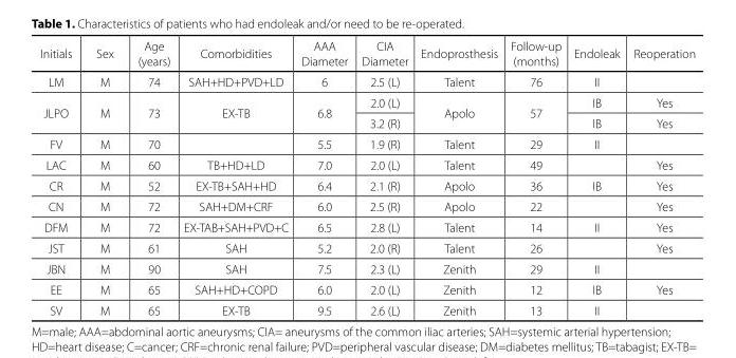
<table><thead><tr><td>Initials</td><td>Sex</td><td>Age (years)</td><td>Comorbidities</td><td>AAA Diameter</td><td>CIA Diameter</td><td>Endoprosthesis</td><td>Follow-up (months)</td><td>Endoleak</td><td>Reoperation</td></tr></thead><tbody><tr><td>LM</td><td>M</td><td>74</td><td>SAH+HD+PVD+LD</td><td>6</td><td>2.5 (L)</td><td>Talent</td><td>76</td><td>II</td><td></td></tr><tr><td rowspan="2">JLPO</td><td rowspan="2">M</td><td rowspan="2">73</td><td rowspan="2">EX-TB</td><td rowspan="2">6.8</td><td>2.0 (L)</td><td rowspan="2">Apolo</td><td rowspan="2">57</td><td>IB</td><td>Yes</td></tr><tr><td>3.2 (R)</td><td>IB</td><td>Yes</td></tr><tr><td>FV</td><td>M</td><td>70</td><td></td><td>5.5</td><td>1.9 (R)</td><td>Talent</td><td>29</td><td>II</td><td></td></tr><tr><td>LAC</td><td>M</td><td>60</td><td>TB+HD+LD</td><td>7.0</td><td>2.0 (L)</td><td>Talent</td><td>49</td><td></td><td>Yes</td></tr><tr><td>CR</td><td>M</td><td>52</td><td>EX-TB+SAH+HD</td><td>6.4</td><td>2.1 (R)</td><td>Apolo</td><td>36</td><td>IB</td><td>Yes</td></tr><tr><td>CN</td><td>M</td><td>72</td><td>SAH+DM+CRF</td><td>6.0</td><td>2.5 (R)</td><td>Apolo</td><td>22</td><td></td><td>Yes</td></tr><tr><td>DFM</td><td>M</td><td>72</td><td>EX-TAB+SAH+PVD+C</td><td>6.5</td><td>2.8 (L)</td><td>Talent</td><td>14</td><td>II</td><td>Yes</td></tr><tr><td>JST</td><td>M</td><td>61</td><td>SAH</td><td>5.2</td><td>2.0 (R)</td><td>Talent</td><td>26</td><td></td><td>Yes</td></tr><tr><td>JBN</td><td>M</td><td>90</td><td>SAH</td><td>7.5</td><td>2.3 (L)</td><td>Zenith</td><td>29</td><td>II</td><td></td></tr><tr><td>EE</td><td>M</td><td>65</td><td>SAH+HD+COPD</td><td>6.0</td><td>2.0 (L)</td><td>Zenith</td><td>12</td><td>IB</td><td>Yes</td></tr><tr><td>SV</td><td>M</td><td>65</td><td>EX-TB</td><td>9.5</td><td>2.6 (L)</td><td>Zenith</td><td>13</td><td>II</td><td></td></tr></tbody></table>